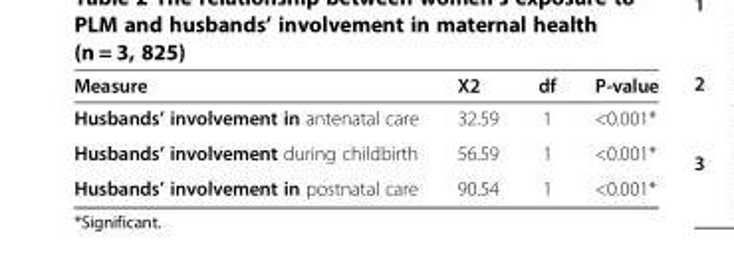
<table><thead><tr><td>Measure</td><td>X2</td><td>df</td><td>P-value</td></tr></thead><tbody><tr><td>Husbands’ involvement in antenatal care</td><td>32.59</td><td>1</td><td>&lt;0.001*</td></tr><tr><td>Husbands’ involvement during childbirth</td><td>56.59</td><td>1</td><td>&lt;0.001*</td></tr><tr><td>Husbands’ involvement in postnatal care</td><td>90.54</td><td>1</td><td>&lt;0.001*</td></tr></tbody></table>